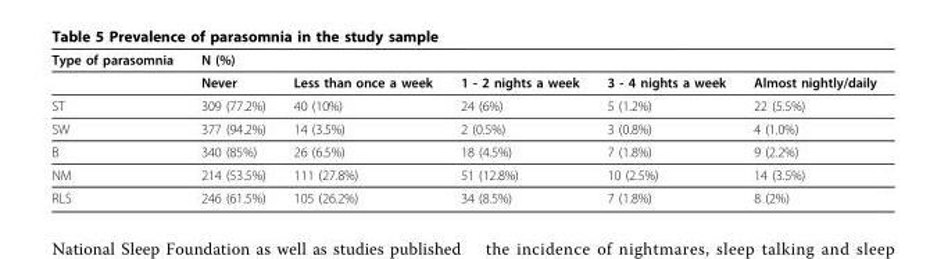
<table><thead><tr><td>Type of parasomnia</td><td>N (%)</td><td></td><td></td><td></td><td></td></tr></thead><tbody><tr><td></td><td>Never</td><td>Less than once a week</td><td>1 - 2 nights a week</td><td>3 - 4 nights a week</td><td>Almost nightly/daily</td></tr><tr><td>ST</td><td>309 (77.2%)</td><td>40 (10%)</td><td>24 (6%)</td><td>5 (1.2%)</td><td>22 (5.5%)</td></tr><tr><td>SW</td><td>377 (94.2%)</td><td>14 (3.5%)</td><td>2 (0.5%)</td><td>3 (0.8%)</td><td>4 (1.0%)</td></tr><tr><td>B</td><td>340 (85%)</td><td>26 (6.5%)</td><td>18 (4.5%)</td><td>7 (1.8%)</td><td>9 (2.2%)</td></tr><tr><td>NM</td><td>214 (53.5%)</td><td>111 (27.8%)</td><td>51 (12.8%)</td><td>10 (2.5%)</td><td>14 (3.5%)</td></tr><tr><td>RLS</td><td>246 (61.5%)</td><td>105 (26.2%)</td><td>34 (8.5%)</td><td>7 (1.8%)</td><td>8 (2%)</td></tr></tbody></table>